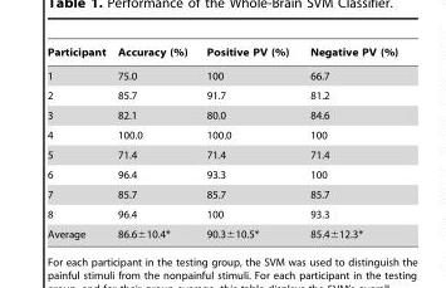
<table><thead><tr><td>Participant</td><td>Accuracy (%)</td><td>Positive PV (%)</td><td>Negative PV (%)</td></tr></thead><tbody><tr><td>1</td><td>75.0</td><td>100</td><td>66.7</td></tr><tr><td>2</td><td>85.7</td><td>91.7</td><td>81.2</td></tr><tr><td>3</td><td>82.1</td><td>80.0</td><td>84.6</td></tr><tr><td>4</td><td>100.0</td><td>100.0</td><td>100</td></tr><tr><td>5</td><td>71.4</td><td>71.4</td><td>71.4</td></tr><tr><td>6</td><td>96.4</td><td>93.3</td><td>100</td></tr><tr><td>7</td><td>85.7</td><td>85.7</td><td>85.7</td></tr><tr><td>8</td><td>96.4</td><td>100</td><td>93.3</td></tr><tr><td>Average</td><td>86.6±10.4*</td><td>90.3±10.5*</td><td>85.4±12.3*</td></tr></tbody></table>